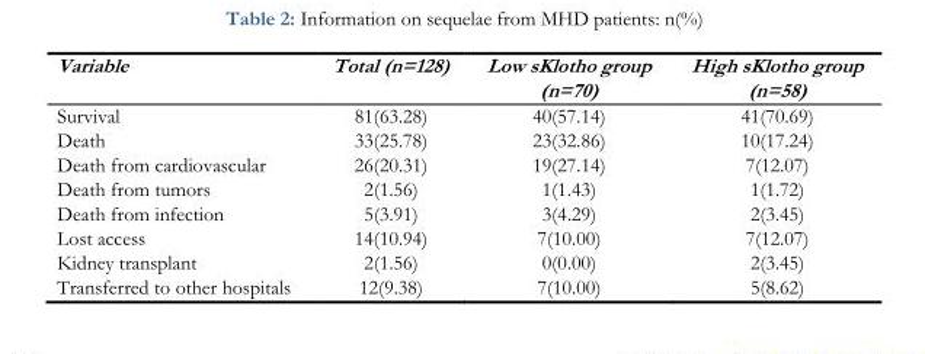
<table><thead><tr><td>Variable</td><td>Total (n=128)</td><td>Low sKlotho group (n=70)</td><td>High sKlotho group (n=58)</td></tr></thead><tbody><tr><td>Survival</td><td>81(63.28)</td><td>40(57.14)</td><td>41(70.69)</td></tr><tr><td>Death</td><td>33(25.78)</td><td>23(32.86)</td><td>10(17.24)</td></tr><tr><td>Death from cardiovascular</td><td>26(20.31)</td><td>19(27.14)</td><td>7(12.07)</td></tr><tr><td>Death from tumors</td><td>2(1.56)</td><td>1(1.43)</td><td>1(1.72)</td></tr><tr><td>Death from infection</td><td>5(3.91)</td><td>3(4.29)</td><td>2(3.45)</td></tr><tr><td>Lost access</td><td>14(10.94)</td><td>7(10.00)</td><td>7(12.07)</td></tr><tr><td>Kidney transplant</td><td>2(1.56)</td><td>0(0.00)</td><td>2(3.45)</td></tr><tr><td>Transferred to other hospitals</td><td>12(9.38)</td><td>7(10.00)</td><td>5(8.62)</td></tr></tbody></table>